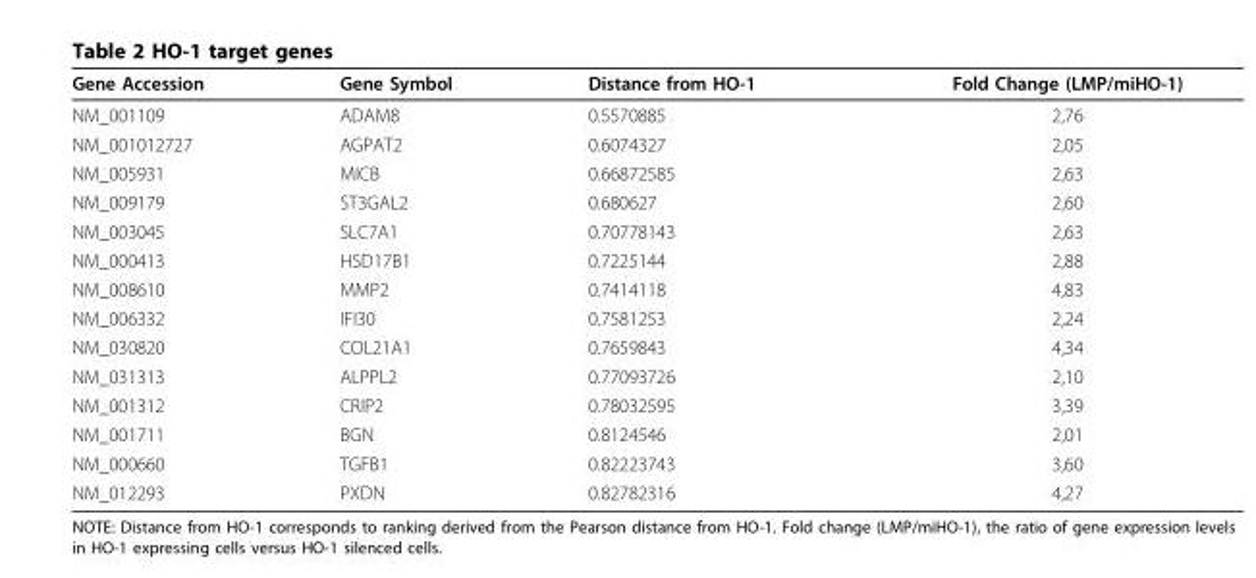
<table><thead><tr><td>Gene Accession</td><td>Gene Symbol</td><td>Distance from HO-1</td><td>Fold Change (LMP/miHO-1)</td></tr></thead><tbody><tr><td>NM_001109</td><td>ADAM8</td><td>0.5570885</td><td>2,76</td></tr><tr><td>NM_001012727</td><td>AGPAT2</td><td>0.6074327</td><td>2,05</td></tr><tr><td>NM_005931</td><td>MICB</td><td>0.66872585</td><td>2,63</td></tr><tr><td>NM_009179</td><td>ST3GAL2</td><td>0.680627</td><td>2,60</td></tr><tr><td>NM_003045</td><td>SLC7A1</td><td>0.70778143</td><td>2,63</td></tr><tr><td>NM_000413</td><td>HSD17B1</td><td>0.7225144</td><td>2,88</td></tr><tr><td>NM_008610</td><td>MMP2</td><td>0.7414118</td><td>4,83</td></tr><tr><td>NM_006332</td><td>IFI30</td><td>0.7581253</td><td>2,24</td></tr><tr><td>NM_030820</td><td>COL21A1</td><td>0.7659843</td><td>4,34</td></tr><tr><td>NM_031313</td><td>ALPPL2</td><td>0.77093726</td><td>2,10</td></tr><tr><td>NM_001312</td><td>CRIP2</td><td>0.78032595</td><td>3,39</td></tr><tr><td>NM_001711</td><td>BGN</td><td>0.8124546</td><td>2,01</td></tr><tr><td>NM_000660</td><td>TGFB1</td><td>0.82223743</td><td>3,60</td></tr><tr><td>NM_012293</td><td>PXDN</td><td>0.82782316</td><td>4,27</td></tr></tbody></table>